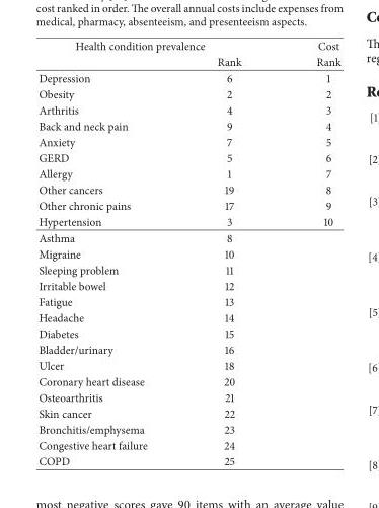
<table><thead><tr><td colspan="2">Health condition prevalence</td><td rowspan="2">Cost Rank</td></tr><tr><td></td><td>Rank</td></tr></thead><tbody><tr><td>Depression</td><td>6</td><td>1</td></tr><tr><td>Obesity</td><td>2</td><td>2</td></tr><tr><td>Arthritis</td><td>4</td><td>3</td></tr><tr><td>Back and neck pain</td><td>9</td><td>4</td></tr><tr><td>Anxiety</td><td>7</td><td>5</td></tr><tr><td>GERD</td><td>5</td><td>6</td></tr><tr><td>Allergy</td><td>1</td><td>7</td></tr><tr><td>Other cancers</td><td>19</td><td>8</td></tr><tr><td>Other chronic pains</td><td>17</td><td>9</td></tr><tr><td>Hypertension</td><td>3</td><td>10</td></tr><tr><td>Asthma</td><td>8</td><td></td></tr><tr><td>Migraine</td><td>10</td><td></td></tr><tr><td>Sleeping problem</td><td>11</td><td></td></tr><tr><td>Irritable bowel</td><td>12</td><td></td></tr><tr><td>Fatigue</td><td>13</td><td></td></tr><tr><td>Headache</td><td>14</td><td></td></tr><tr><td>Diabetes</td><td>15</td><td></td></tr><tr><td>Bladder/urinary</td><td>16</td><td></td></tr><tr><td>Ulcer</td><td>18</td><td></td></tr><tr><td>Coronary heart disease</td><td>20</td><td></td></tr><tr><td>Osteoarthritis</td><td>21</td><td></td></tr><tr><td>Skin cancer</td><td>22</td><td></td></tr><tr><td>Bronchitis/emphysema</td><td>23</td><td></td></tr><tr><td>Congestive heart failure</td><td>24</td><td></td></tr><tr><td>COPD</td><td>25</td><td></td></tr></tbody></table>